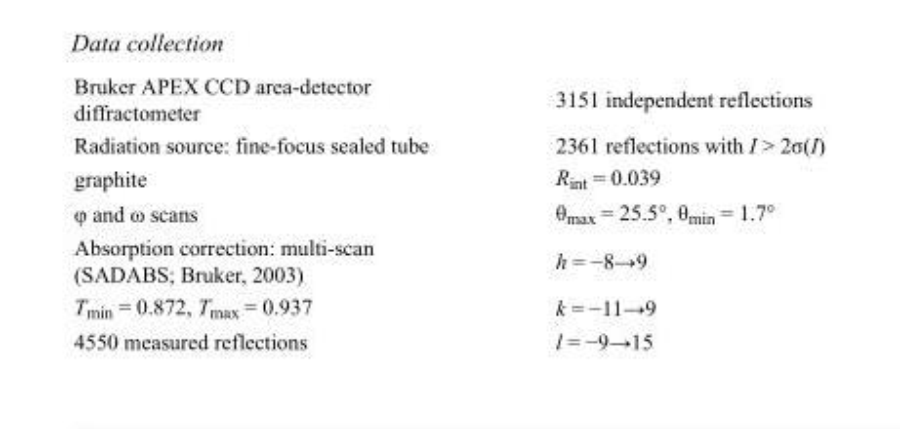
<table><tbody><tr><td>Bruker APEX CCD area-detector diffractometer</td><td>3151 independent reflections</td></tr><tr><td>Radiation source: fine-focus sealed tube</td><td>2361 reflections with I &gt; 2σ(I)</td></tr><tr><td>graphite</td><td>R<sub>int</sub> = 0.039</td></tr><tr><td>φ and ω scans</td><td>θ<sub>max</sub> = 25.5°, θ<sub>min</sub> = 1.7°</td></tr><tr><td>Absorption correction: multi-scan (SADABS; Bruker, 2003)</td><td>h = −8→9</td></tr><tr><td>T<sub>min</sub> = 0.872, T<sub>max</sub> = 0.937</td><td>k = −11→9</td></tr><tr><td>4550 measured reflections</td><td>l = −9→15</td></tr></tbody></table>